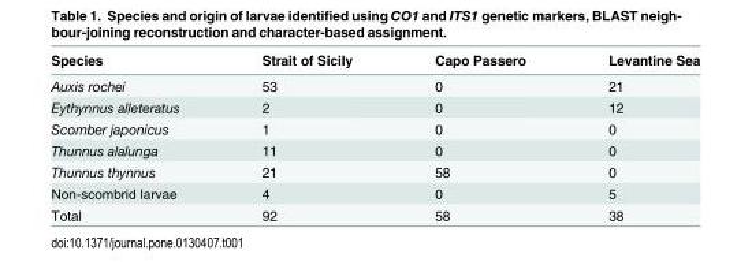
<table><thead><tr><td>Species</td><td>Strait of Sicily</td><td>Capo Passero</td><td>Levantine Sea</td></tr></thead><tbody><tr><td>Auxis rochei</td><td>53</td><td>0</td><td>21</td></tr><tr><td>Eythynnus alleteratus</td><td>2</td><td>0</td><td>12</td></tr><tr><td>Scomber japonicus</td><td>1</td><td>0</td><td>0</td></tr><tr><td>Thunnus alalunga</td><td>11</td><td>0</td><td>0</td></tr><tr><td>Thunnus thynnus</td><td>21</td><td>58</td><td>0</td></tr><tr><td>Non-scombrid larvae</td><td>4</td><td>0</td><td>5</td></tr><tr><td>Total</td><td>92</td><td>58</td><td>38</td></tr></tbody></table>